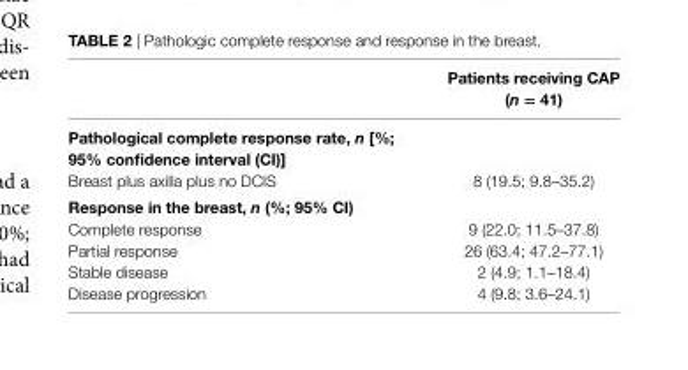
<table><thead><tr><td></td><td>Patients receiving CaP (n = 41)</td></tr></thead><tbody><tr><td colspan="2">Pathological complete response rate, n [%; 95% confidence interval (Ci)]</td></tr><tr><td>Breast plus axilla plus no DCIS</td><td>8 (19.5; 9.8–35.2)</td></tr><tr><td colspan="2">response in the breast, n (%; 95% Ci)</td></tr><tr><td>Complete response</td><td>9 (22.0; 11.5–37.8)</td></tr><tr><td>Partial response</td><td>26 (63.4; 47.2–77.1)</td></tr><tr><td>Stable disease</td><td>2 (4.9; 1.1–18.4)</td></tr><tr><td>Disease progression</td><td>4 (9.8; 3.6–24.1)</td></tr></tbody></table>